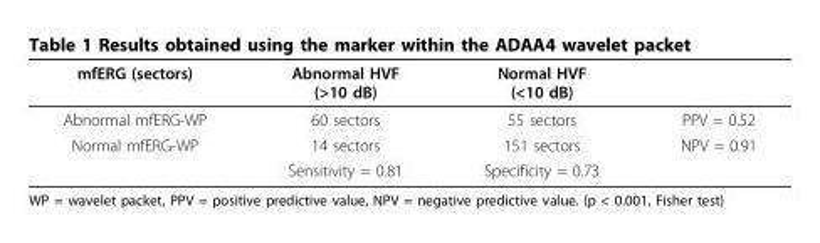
<table><thead><tr><td>mfERG (sectors)</td><td>Abnormal HVF (&gt;10 dB)</td><td>Normal HVF (&lt;10 dB)</td><td></td></tr></thead><tbody><tr><td>Abnormal mfERG-WP</td><td>60 sectors</td><td>55 sectors</td><td>PPV = 0.52</td></tr><tr><td rowspan="2">Normal mfERG-WP</td><td>14 sectors</td><td>151 sectors</td><td>NPV = 0.91</td></tr><tr><td>Sensitivity = 0.81</td><td>Specificity = 0.73</td><td></td></tr></tbody></table>